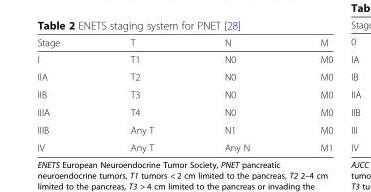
<table><thead><tr><td>Stage</td><td>T</td><td>N</td><td>M</td></tr></thead><tbody><tr><td>I</td><td>T1</td><td>N0</td><td>M0</td></tr><tr><td>IIA</td><td>T2</td><td>N0</td><td>M0</td></tr><tr><td>IIB</td><td>T3</td><td>N0</td><td>M0</td></tr><tr><td>IIIA</td><td>T4</td><td>N0</td><td>M0</td></tr><tr><td>IIIB</td><td>Any T</td><td>N1</td><td>M0</td></tr><tr><td>IV</td><td>Any T</td><td>Any N</td><td>M1</td></tr></tbody></table>